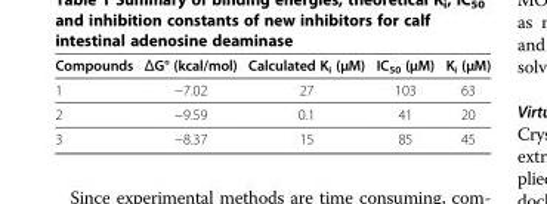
<table><thead><tr><td>Compounds</td><td>ΔG° (kcal/mol)</td><td>Calculated K<sub>i</sub> (μM)</td><td>IC<sub>50</sub> (μM)</td><td>K<sub>i</sub> (μM)</td></tr></thead><tbody><tr><td>1</td><td>−7.02</td><td>27</td><td>103</td><td>63</td></tr><tr><td>2</td><td>−9.59</td><td>0.1</td><td>41</td><td>20</td></tr><tr><td>3</td><td>−8.37</td><td>15</td><td>85</td><td>45</td></tr></tbody></table>